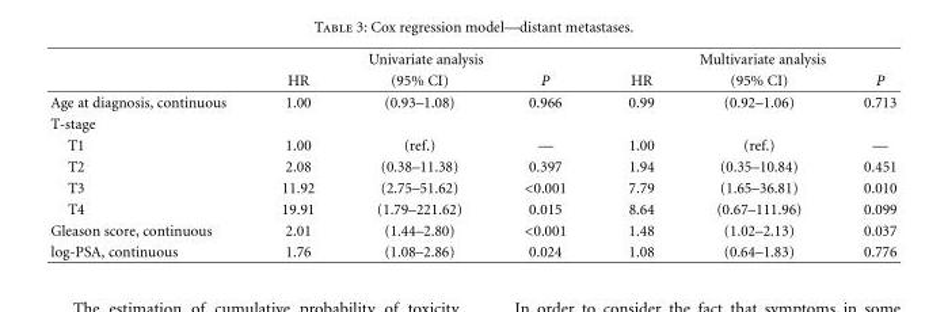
<table><thead><tr><td rowspan="2"></td><td colspan="3">Univariate analysis</td><td colspan="3">Multivariate analysis</td></tr><tr><td>HR</td><td>(95% CI)</td><td>P</td><td>HR</td><td>(95% CI)</td><td>P</td></tr></thead><tbody><tr><td>Age at diagnosis, continuous</td><td>1.00</td><td>(0.93–1.08)</td><td>0.966</td><td>0.99</td><td>(0.92–1.06)</td><td>0.713</td></tr><tr><td colspan="7">T-stage</td></tr><tr><td>T1</td><td>1.00</td><td>(ref.)</td><td>—</td><td>1.00</td><td>(ref.)</td><td>—</td></tr><tr><td>T2</td><td>2.08</td><td>(0.38–11.38)</td><td>0.397</td><td>1.94</td><td>(0.35–10.84)</td><td>0.451</td></tr><tr><td>T3</td><td>11.92</td><td>(2.75–51.62)</td><td>&lt;0.001</td><td>7.79</td><td>(1.65–36.81)</td><td>0.010</td></tr><tr><td>T4</td><td>19.91</td><td>(1.79–221.62)</td><td>0.015</td><td>8.64</td><td>(0.67–111.96)</td><td>0.099</td></tr><tr><td>Gleason score, continuous</td><td>2.01</td><td>(1.44–2.80)</td><td>&lt;0.001</td><td>1.48</td><td>(1.02–2.13)</td><td>0.037</td></tr><tr><td>log-PSA, continuous</td><td>1.76</td><td>(1.08–2.86)</td><td>0.024</td><td>1.08</td><td>(0.64–1.83)</td><td>0.776</td></tr></tbody></table>